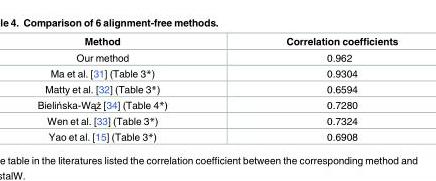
<table><thead><tr><td>Method</td><td>Correlation coefficients</td></tr></thead><tbody><tr><td>Our method</td><td>0.962</td></tr><tr><td>Ma et al. [31] (Table 3*)</td><td>0.9304</td></tr><tr><td>Matty et al. [32] (Table 3*)</td><td>0.6594</td></tr><tr><td>Bielińska-Wąż [34] (Table 4*)</td><td>0.7280</td></tr><tr><td>Wen et al. [33] (Table 3*)</td><td>0.7324</td></tr><tr><td>Yao et al. [15] (Table 3*)</td><td>0.6908</td></tr></tbody></table>